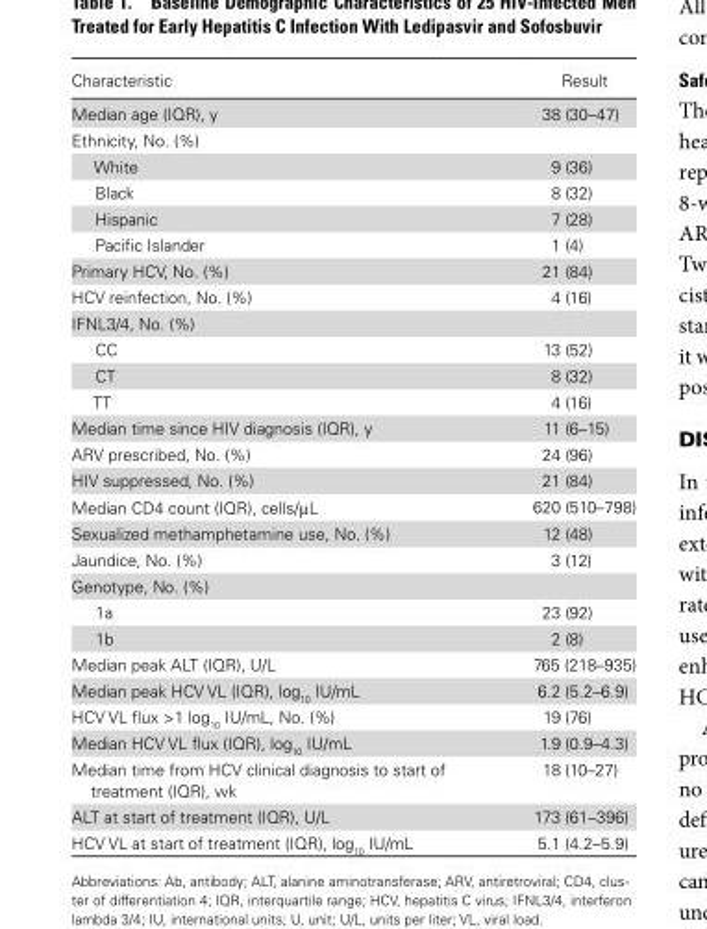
<table><thead><tr><td>Characteristic</td><td>Result</td></tr></thead><tbody><tr><td>Median age (IQR), y</td><td>38 (30–47)</td></tr><tr><td colspan="2">Ethnicity, No. (%)</td></tr><tr><td>White</td><td>9 (36)</td></tr><tr><td>Black</td><td>8 (32)</td></tr><tr><td>Hispanic</td><td>7 (28)</td></tr><tr><td>Pacific Islander</td><td>1 (4)</td></tr><tr><td>Primary HCV, No. (%)</td><td>21 (84)</td></tr><tr><td>HCV reinfection, No. (%)</td><td>4 (16)</td></tr><tr><td colspan="2">IFNL3/4, No. (%)</td></tr><tr><td>CC</td><td>13 (52)</td></tr><tr><td>CT</td><td>8 (32)</td></tr><tr><td>TT</td><td>4 (16)</td></tr><tr><td>Median time since HIV diagnosis (IQR), y</td><td>11 (6–15)</td></tr><tr><td>ARV prescribed, No. (%)</td><td>24 (96)</td></tr><tr><td>HIV suppressed, No. (%)</td><td>21 (84)</td></tr><tr><td>Median CD4 count (IQR), cells/μL</td><td>620 (510–798)</td></tr><tr><td>Sexualized methamphetamine use, No. (%)</td><td>12 (48)</td></tr><tr><td>Jaundice, No. (%)</td><td>3 (12)</td></tr><tr><td colspan="2">Genotype, No. (%)</td></tr><tr><td>1a</td><td>23 (92)</td></tr><tr><td>1b</td><td>2 (8)</td></tr><tr><td>Median peak ALT (IQR), U/L</td><td>765 (218–935)</td></tr><tr><td>Median peak HCV VL (IQR), log<sub>10</sub> IU/mL</td><td>6.2 (5.2–6.9)</td></tr><tr><td>HCV VL flux &gt;1 log<sub>10</sub> IU/mL, No. (%)</td><td>19 (76)</td></tr><tr><td>Median HCV VL flux (IQR), log<sub>10</sub> IU/mL</td><td>1.9 (0.9–4.3)</td></tr><tr><td>Median time from HCV clinical diagnosis to start of treatment (IQR), wk</td><td>18 (10–27)</td></tr><tr><td>ALT at start of treatment (IQR), U/L</td><td>173 (61–396)</td></tr><tr><td>HCV VL at start of treatment (IQR), log<sub>10</sub> IU/mL</td><td>5.1 (4.2–5.9)</td></tr></tbody></table>